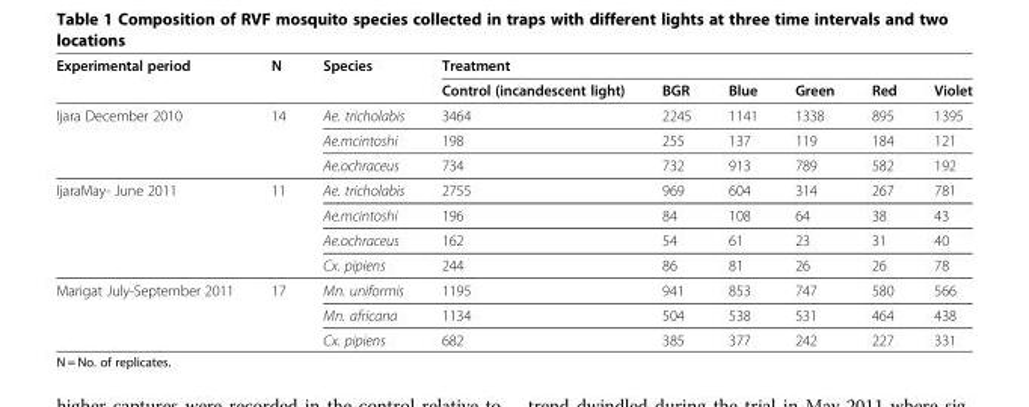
<table><thead><tr><td rowspan="2">Experimental period</td><td rowspan="2">N</td><td rowspan="2">Species</td><td colspan="6">Treatment</td></tr><tr><td>Control (incandescent light)</td><td>BGR</td><td>Blue</td><td>Green</td><td>Red</td><td>Violet</td></tr></thead><tbody><tr><td rowspan="3">Ijara December 2010</td><td rowspan="3">14</td><td>Ae. tricholabis</td><td>3464</td><td>2245</td><td>1141</td><td>1338</td><td>895</td><td>1395</td></tr><tr><td>Ae.mcintoshi</td><td>198</td><td>255</td><td>137</td><td>119</td><td>184</td><td>121</td></tr><tr><td>Ae.ochraceus</td><td>734</td><td>732</td><td>913</td><td>789</td><td>582</td><td>192</td></tr><tr><td rowspan="4">IjaraMay- June 2011</td><td rowspan="4">11</td><td>Ae. tricholabis</td><td>2755</td><td>969</td><td>604</td><td>314</td><td>267</td><td>781</td></tr><tr><td>Ae.mcintoshi</td><td>196</td><td>84</td><td>108</td><td>64</td><td>38</td><td>43</td></tr><tr><td>Ae.ochraceus</td><td>162</td><td>54</td><td>61</td><td>23</td><td>31</td><td>40</td></tr><tr><td>Cx. pipiens</td><td>244</td><td>86</td><td>81</td><td>26</td><td>26</td><td>78</td></tr><tr><td rowspan="3">Marigat July-September 2011</td><td rowspan="3">17</td><td>Mn. uniformis</td><td>1195</td><td>941</td><td>853</td><td>747</td><td>580</td><td>566</td></tr><tr><td>Mn. africana</td><td>1134</td><td>504</td><td>538</td><td>531</td><td>464</td><td>438</td></tr><tr><td>Cx. pipiens</td><td>682</td><td>385</td><td>377</td><td>242</td><td>227</td><td>331</td></tr></tbody></table>